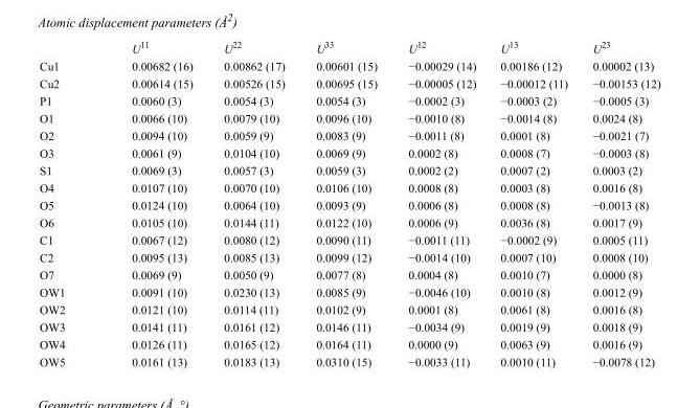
<table><thead><tr><td></td><td>U<sup>11</sup></td><td>U<sup>22</sup></td><td>U<sup>33</sup></td><td>U<sup>12</sup></td><td>U<sup>13</sup></td><td>U<sup>23</sup></td></tr></thead><tbody><tr><td>Cu1</td><td>0.00682 (16)</td><td>0.00862 (17)</td><td>0.00601 (15)</td><td>−0.00029 (14)</td><td>0.00186 (12)</td><td>0.00002 (13)</td></tr><tr><td>Cu2</td><td>0.00614 (15)</td><td>0.00526 (15)</td><td>0.00695 (15)</td><td>−0.00005 (12)</td><td>−0.00012 (11)</td><td>−0.00153 (12)</td></tr><tr><td>P1</td><td>0.0060 (3)</td><td>0.0054 (3)</td><td>0.0054 (3)</td><td>−0.0002 (3)</td><td>−0.0003 (2)</td><td>−0.0005 (3)</td></tr><tr><td>O1</td><td>0.0066 (10)</td><td>0.0079 (10)</td><td>0.0096 (10)</td><td>−0.0010 (8)</td><td>−0.0014 (8)</td><td>0.0024 (8)</td></tr><tr><td>O2</td><td>0.0094 (10)</td><td>0.0059 (9)</td><td>0.0083 (9)</td><td>−0.0011 (8)</td><td>0.0001 (8)</td><td>−0.0021 (7)</td></tr><tr><td>O3</td><td>0.0061 (9)</td><td>0.0104 (10)</td><td>0.0069 (9)</td><td>0.0002 (8)</td><td>0.0008 (7)</td><td>−0.0003 (8)</td></tr><tr><td>S1</td><td>0.0069 (3)</td><td>0.0057 (3)</td><td>0.0059 (3)</td><td>0.0002 (2)</td><td>0.0007 (2)</td><td>0.0003 (2)</td></tr><tr><td>O4</td><td>0.0107 (10)</td><td>0.0070 (10)</td><td>0.0106 (10)</td><td>0.0008 (8)</td><td>0.0003 (8)</td><td>0.0016 (8)</td></tr><tr><td>O5</td><td>0.0124 (10)</td><td>0.0064 (10)</td><td>0.0093 (9)</td><td>0.0006 (8)</td><td>0.0008 (8)</td><td>−0.0013 (8)</td></tr><tr><td>O6</td><td>0.0105 (10)</td><td>0.0144 (11)</td><td>0.0122 (10)</td><td>0.0006 (9)</td><td>0.0036 (8)</td><td>0.0017 (9)</td></tr><tr><td>C1</td><td>0.0067 (12)</td><td>0.0080 (12)</td><td>0.0090 (11)</td><td>−0.0011 (11)</td><td>−0.0002 (9)</td><td>0.0005 (11)</td></tr><tr><td>C2</td><td>0.0095 (13)</td><td>0.0085 (13)</td><td>0.0099 (12)</td><td>−0.0014 (10)</td><td>0.0007 (10)</td><td>0.0008 (10)</td></tr><tr><td>O7</td><td>0.0069 (9)</td><td>0.0050 (9)</td><td>0.0077 (8)</td><td>0.0004 (8)</td><td>0.0010 (7)</td><td>0.0000 (8)</td></tr><tr><td>OW1</td><td>0.0091 (10)</td><td>0.0230 (13)</td><td>0.0085 (9)</td><td>−0.0046 (10)</td><td>0.0010 (8)</td><td>0.0012 (9)</td></tr><tr><td>OW2</td><td>0.0121 (10)</td><td>0.0114 (11)</td><td>0.0102 (9)</td><td>0.0001 (8)</td><td>0.0061 (8)</td><td>0.0016 (8)</td></tr><tr><td>OW3</td><td>0.0141 (11)</td><td>0.0161 (12)</td><td>0.0146 (11)</td><td>−0.0034 (9)</td><td>0.0019 (9)</td><td>0.0018 (9)</td></tr><tr><td>OW4</td><td>0.0126 (11)</td><td>0.0165 (12)</td><td>0.0164 (11)</td><td>0.0000 (9)</td><td>0.0063 (9)</td><td>0.0016 (9)</td></tr><tr><td>OW5</td><td>0.0161 (13)</td><td>0.0183 (13)</td><td>0.0310 (15)</td><td>−0.0033 (11)</td><td>0.0010 (11)</td><td>−0.0078 (12)</td></tr></tbody></table>